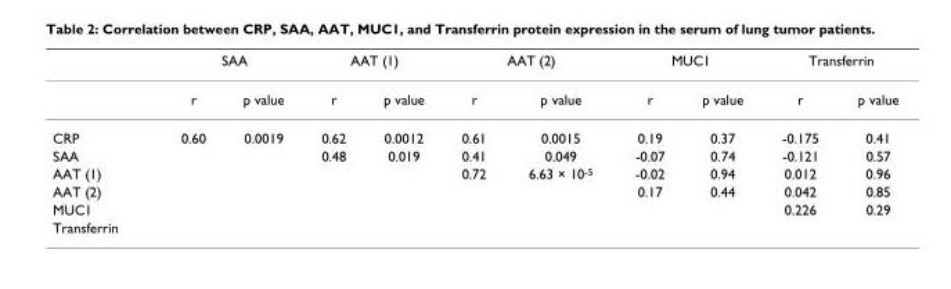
<table><thead><tr><td rowspan="2"></td><td colspan="2">SAA</td><td colspan="2">AAT (1)</td><td colspan="2">AAT (2)</td><td colspan="2">MUC1</td><td colspan="2">Transferrin</td></tr><tr><td>r</td><td>p value</td><td>r</td><td>p value</td><td>r</td><td>p value</td><td>r</td><td>p value</td><td>r</td><td>p value</td></tr></thead><tbody><tr><td>CRP</td><td>0.60</td><td>0.0019</td><td>0.62</td><td>0.0012</td><td>0.61</td><td>0.0015</td><td>0.19</td><td>0.37</td><td>-0.175</td><td>0.41</td></tr><tr><td>SAA</td><td></td><td></td><td>0.48</td><td>0.019</td><td>0.41</td><td>0.049</td><td>-0.07</td><td>0.74</td><td>-0.121</td><td>0.57</td></tr><tr><td>AAT (1)</td><td></td><td></td><td></td><td></td><td>0.72</td><td>6.63 × 10-5</td><td>-0.02</td><td>0.94</td><td>0.012</td><td>0.96</td></tr><tr><td>AAT (2)</td><td></td><td></td><td></td><td></td><td></td><td></td><td>0.17</td><td>0.44</td><td>0.042</td><td>0.85</td></tr><tr><td>MUC1</td><td></td><td></td><td></td><td></td><td></td><td></td><td></td><td></td><td>0.226</td><td>0.29</td></tr><tr><td>Transferrin</td><td></td><td></td><td></td><td></td><td></td><td></td><td></td><td></td><td></td><td></td></tr></tbody></table>